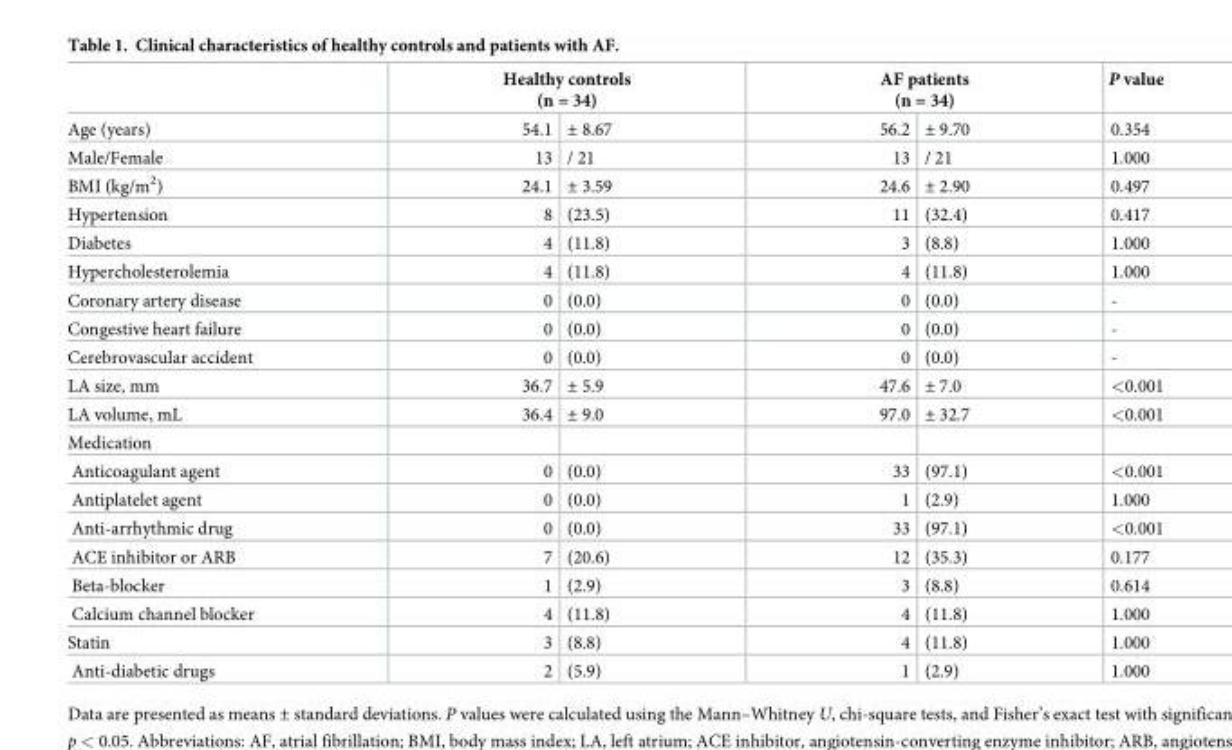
<table><thead><tr><td rowspan="2">Age (years)</td><td colspan="2">Healthy controls (n = 34)</td><td colspan="2">AF patients (n = 34)</td><td rowspan="2">P value 0.354</td></tr><tr><td>54.1</td><td>± 8.67</td><td>56.2</td><td>± 9.70</td></tr></thead><tbody><tr><td>Male/Female</td><td>13</td><td>/ 21</td><td>13</td><td>/ 21</td><td>1.000</td></tr><tr><td>BMI (kg/m<sup>2</sup>)</td><td>24.1</td><td>± 3.59</td><td>24.6</td><td>± 2.90</td><td>0.497</td></tr><tr><td>Hypertension</td><td>8</td><td>(23.5)</td><td>11</td><td>(32.4)</td><td>0.417</td></tr><tr><td>Diabetes</td><td>4</td><td>(11.8)</td><td>3</td><td>(8.8)</td><td>1.000</td></tr><tr><td>Hypercholesterolemia</td><td>4</td><td>(11.8)</td><td>4</td><td>(11.8)</td><td>1.000</td></tr><tr><td>Coronary artery disease</td><td>0</td><td>(0.0)</td><td>0</td><td>(0.0)</td><td>-</td></tr><tr><td>Congestive heart failure</td><td>0</td><td>(0.0)</td><td>0</td><td>(0.0)</td><td>-</td></tr><tr><td>Cerebrovascular accident</td><td>0</td><td>(0.0)</td><td>0</td><td>(0.0)</td><td>-</td></tr><tr><td>LA size, mm</td><td>36.7</td><td>± 5.9</td><td>47.6</td><td>± 7.0</td><td>&lt;0.001</td></tr><tr><td>LA volume, mL</td><td>36.4</td><td>± 9.0</td><td>97.0</td><td>± 32.7</td><td>&lt;0.001</td></tr><tr><td colspan="6">Medication</td></tr><tr><td>Anticoagulant agent</td><td>0</td><td>(0.0)</td><td>33</td><td>(97.1)</td><td>&lt;0.001</td></tr><tr><td>Antiplatelet agent</td><td>0</td><td>(0.0)</td><td>1</td><td>(2.9)</td><td>1.000</td></tr><tr><td>Anti-arrhythmic drug</td><td>0</td><td>(0.0)</td><td>33</td><td>(97.1)</td><td>&lt;0.001</td></tr><tr><td>ACE inhibitor or ARB</td><td>7</td><td>(20.6)</td><td>12</td><td>(35.3)</td><td>0.177</td></tr><tr><td>Beta-blocker</td><td>1</td><td>(2.9)</td><td>3</td><td>(8.8)</td><td>0.614</td></tr><tr><td>Calcium channel blocker</td><td>4</td><td>(11.8)</td><td>4</td><td>(11.8)</td><td>1.000</td></tr><tr><td>Statin</td><td>3</td><td>(8.8)</td><td>4</td><td>(11.8)</td><td>1.000</td></tr><tr><td>Anti-diabetic drugs</td><td>2</td><td>(5.9)</td><td>1</td><td>(2.9)</td><td>1.000</td></tr></tbody></table>